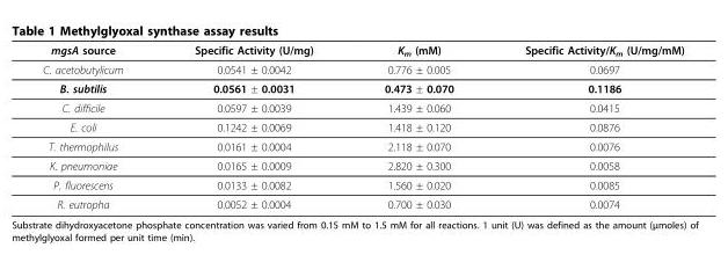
<table><thead><tr><td>mgsA source</td><td>Specific Activity (U/mg)</td><td>K<sub>m</sub> (mM)</td><td>Specific Activity/K<sub>m</sub> (U/mg/mM)</td></tr></thead><tbody><tr><td>C. acetobutylicum</td><td>0.0541 ± 0.0042</td><td>0.776 ± 0.005</td><td>0.0697</td></tr><tr><td>B. subtilis</td><td>0.0561 ± 0.0031</td><td>0.473 ± 0.070</td><td>0.1186</td></tr><tr><td>C. difficile</td><td>0.0597 ± 0.0039</td><td>1.439 ± 0.060</td><td>0.0415</td></tr><tr><td>E. coli</td><td>0.1242 ± 0.0069</td><td>1.418 ± 0.120</td><td>0.0876</td></tr><tr><td>T. thermophilus</td><td>0.0161 ± 0.0004</td><td>2.118 ± 0.070</td><td>0.0076</td></tr><tr><td>K. pneumoniae</td><td>0.0165 ± 0.0009</td><td>2.820 ± 0.300</td><td>0.0058</td></tr><tr><td>P. fluorescens</td><td>0.0133 ± 0.0082</td><td>1.560 ± 0.020</td><td>0.0085</td></tr><tr><td>R. eutropha</td><td>0.0052 ± 0.0004</td><td>0.700 ± 0.030</td><td>0.0074</td></tr></tbody></table>